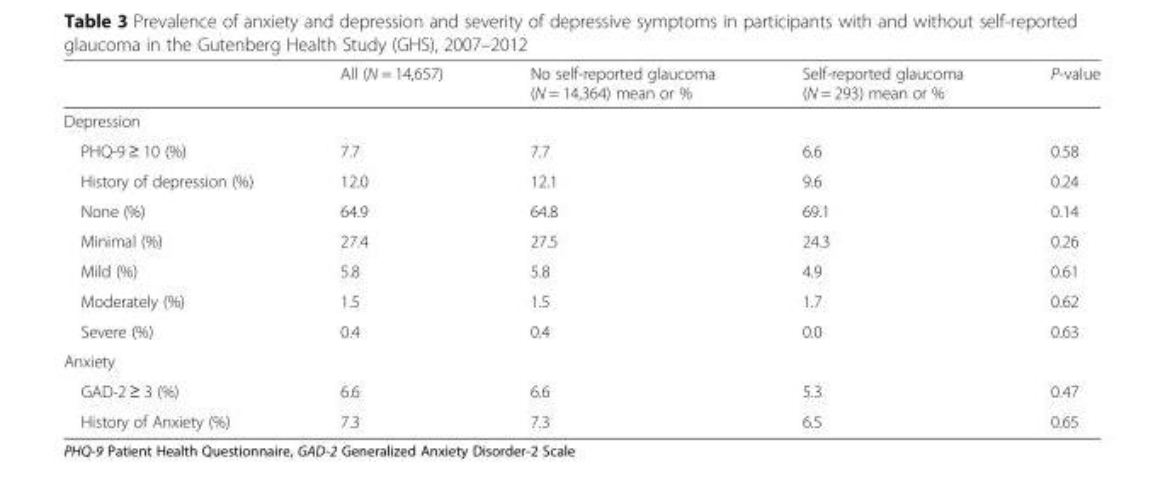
<table><thead><tr><td></td><td>All (N = 14,657)</td><td>No self-reported glaucoma (N = 14,364) mean or %</td><td>Self-reported glaucoma (N = 293) mean or %</td><td>P-value</td></tr></thead><tbody><tr><td colspan="5">Depression</td></tr><tr><td>PHQ-9 ≥ 10 (%)</td><td>7.7</td><td>7.7</td><td>6.6</td><td>0.58</td></tr><tr><td>History of depression (%)</td><td>12.0</td><td>12.1</td><td>9.6</td><td>0.24</td></tr><tr><td>None (%)</td><td>64.9</td><td>64.8</td><td>69.1</td><td>0.14</td></tr><tr><td>Minimal (%)</td><td>27.4</td><td>27.5</td><td>24.3</td><td>0.26</td></tr><tr><td>Mild (%)</td><td>5.8</td><td>5.8</td><td>4.9</td><td>0.61</td></tr><tr><td>Moderately (%)</td><td>1.5</td><td>1.5</td><td>1.7</td><td>0.62</td></tr><tr><td>Severe (%)</td><td>0.4</td><td>0.4</td><td>0.0</td><td>0.63</td></tr><tr><td colspan="5">Anxiety</td></tr><tr><td>GAD-2 ≥ 3 (%)</td><td>6.6</td><td>6.6</td><td>5.3</td><td>0.47</td></tr><tr><td>History of Anxiety (%)</td><td>7.3</td><td>7.3</td><td>6.5</td><td>0.65</td></tr></tbody></table>